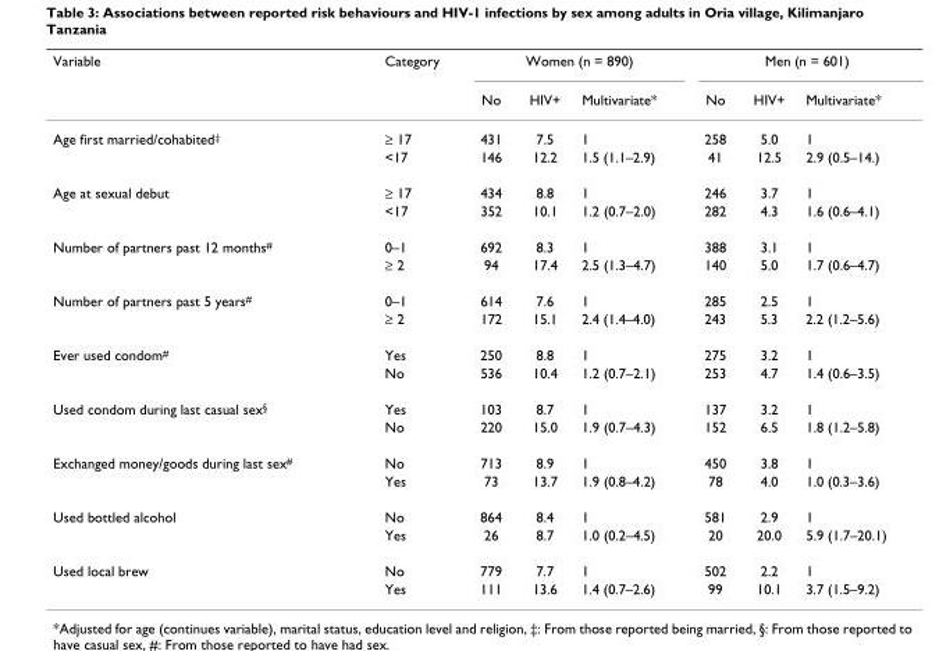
<table><thead><tr><td rowspan="2">Variable</td><td rowspan="2">Category</td><td colspan="3">Women (n = 890)</td><td colspan="3">Men (n = 601)</td></tr><tr><td>No</td><td>HIV+</td><td>Multivariate*</td><td>No</td><td>HIV+</td><td>Multivariate*</td></tr></thead><tbody><tr><td rowspan="2">Age first married/cohabited<sup>‡</sup></td><td>≥ 17</td><td>431</td><td>7.5</td><td>1</td><td>258</td><td>5.0</td><td>1</td></tr><tr><td>&lt;17</td><td>146</td><td>12.2</td><td>1.5 (1.1–2.9)</td><td>41</td><td>12.5</td><td>2.9 (0.5–14.)</td></tr><tr><td rowspan="2">Age at sexual debut</td><td>≥ 17</td><td>434</td><td>8.8</td><td>1</td><td>246</td><td>3.7</td><td>1</td></tr><tr><td>&lt;17</td><td>352</td><td>10.1</td><td>1.2 (0.7–2.0)</td><td>282</td><td>4.3</td><td>1.6 (0.6–4.1)</td></tr><tr><td rowspan="2">Number of partners past 12 months<sup>#</sup></td><td>0–1</td><td>692</td><td>8.3</td><td>1</td><td>388</td><td>3.1</td><td>1</td></tr><tr><td>≥ 2</td><td>94</td><td>17.4</td><td>2.5 (1.3–4.7)</td><td>140</td><td>5.0</td><td>1.7 (0.6–4.7)</td></tr><tr><td rowspan="2">Number of partners past 5 years<sup>#</sup></td><td>0–1</td><td>614</td><td>7.6</td><td>1</td><td>285</td><td>2.5</td><td>1</td></tr><tr><td>≥ 2</td><td>172</td><td>15.1</td><td>2.4 (1.4–4.0)</td><td>243</td><td>5.3</td><td>2.2 (1.2–5.6)</td></tr><tr><td rowspan="2">Ever used condom<sup>#</sup></td><td>Yes</td><td>250</td><td>8.8</td><td>1</td><td>275</td><td>3.2</td><td>1</td></tr><tr><td>No</td><td>536</td><td>10.4</td><td>1.2 (0.7–2.1)</td><td>253</td><td>4.7</td><td>1.4 (0.6–3.5)</td></tr><tr><td rowspan="2">Used condom during last casual sex<sup>§</sup></td><td>Yes</td><td>103</td><td>8.7</td><td>1</td><td>137</td><td>3.2</td><td>1</td></tr><tr><td>No</td><td>220</td><td>15.0</td><td>1.9 (0.7–4.3)</td><td>152</td><td>6.5</td><td>1.8 (1.2–5.8)</td></tr><tr><td rowspan="2">Exchanged money/goods during last sex<sup>#</sup></td><td>No</td><td>713</td><td>8.9</td><td>1</td><td>450</td><td>3.8</td><td>1</td></tr><tr><td>Yes</td><td>73</td><td>13.7</td><td>1.9 (0.8–4.2)</td><td>78</td><td>4.0</td><td>1.0 (0.3–3.6)</td></tr><tr><td rowspan="2">Used bottled alcohol</td><td>No</td><td>864</td><td>8.4</td><td>1</td><td>581</td><td>2.9</td><td>1</td></tr><tr><td>Yes</td><td>26</td><td>8.7</td><td>1.0 (0.2–4.5)</td><td>20</td><td>20.0</td><td>5.9 (1.7–20.1)</td></tr><tr><td rowspan="2">Used local brew</td><td>No</td><td>779</td><td>7.7</td><td>1</td><td>502</td><td>2.2</td><td>1</td></tr><tr><td>Yes</td><td>111</td><td>13.6</td><td>1.4 (0.7–2.6)</td><td>99</td><td>10.1</td><td>3.7 (1.5–9.2)</td></tr></tbody></table>